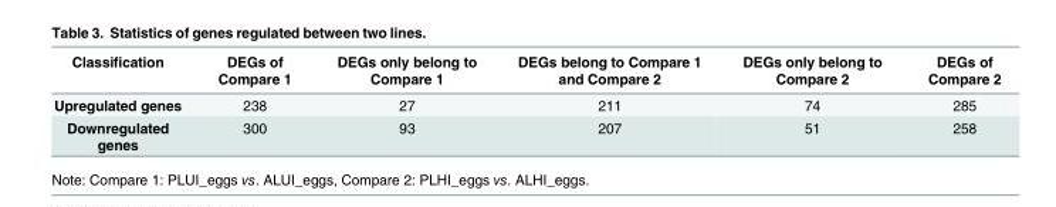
<table><thead><tr><td>Classification</td><td>DEGs of Compare 1</td><td>DEGs only belong to Compare 1</td><td>DEGs belong to Compare 1 and Compare 2</td><td>DEGs only belong to Compare 2</td><td>DEGs of Compare 2</td></tr></thead><tbody><tr><td>Upregulated genes</td><td>238</td><td>27</td><td>211</td><td>74</td><td>285</td></tr><tr><td>Downregulated genes</td><td>300</td><td>93</td><td>207</td><td>51</td><td>258</td></tr></tbody></table>